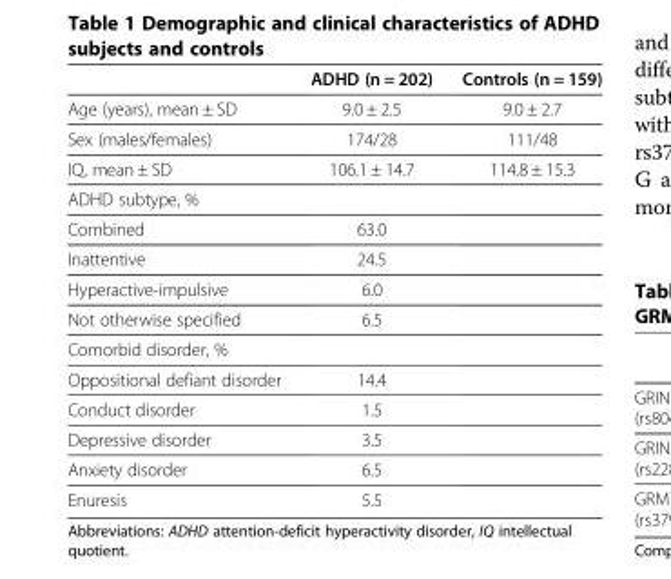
<table><thead><tr><td></td><td>ADHD (n = 202)</td><td>Controls (n = 159)</td></tr></thead><tbody><tr><td>Age (years), mean ± SD</td><td>9.0 ± 2.5</td><td>9.0 ± 2.7</td></tr><tr><td>Sex (males/females)</td><td>174/28</td><td>111/48</td></tr><tr><td>IQ, mean ± SD</td><td>106.1 ± 14.7</td><td>114.8 ± 15.3</td></tr><tr><td colspan="3">ADHD subtype, %</td></tr><tr><td>Combined</td><td>63.0</td><td></td></tr><tr><td>Inattentive</td><td>24.5</td><td></td></tr><tr><td>Hyperactive-impulsive</td><td>6.0</td><td></td></tr><tr><td>Not otherwise specified</td><td>6.5</td><td></td></tr><tr><td colspan="3">Comorbid disorder, %</td></tr><tr><td>Oppositional defiant disorder</td><td>14.4</td><td></td></tr><tr><td>Conduct disorder</td><td>1.5</td><td></td></tr><tr><td>Depressive disorder</td><td>3.5</td><td></td></tr><tr><td>Anxiety disorder</td><td>6.5</td><td></td></tr><tr><td>Enuresis</td><td>5.5</td><td></td></tr></tbody></table>